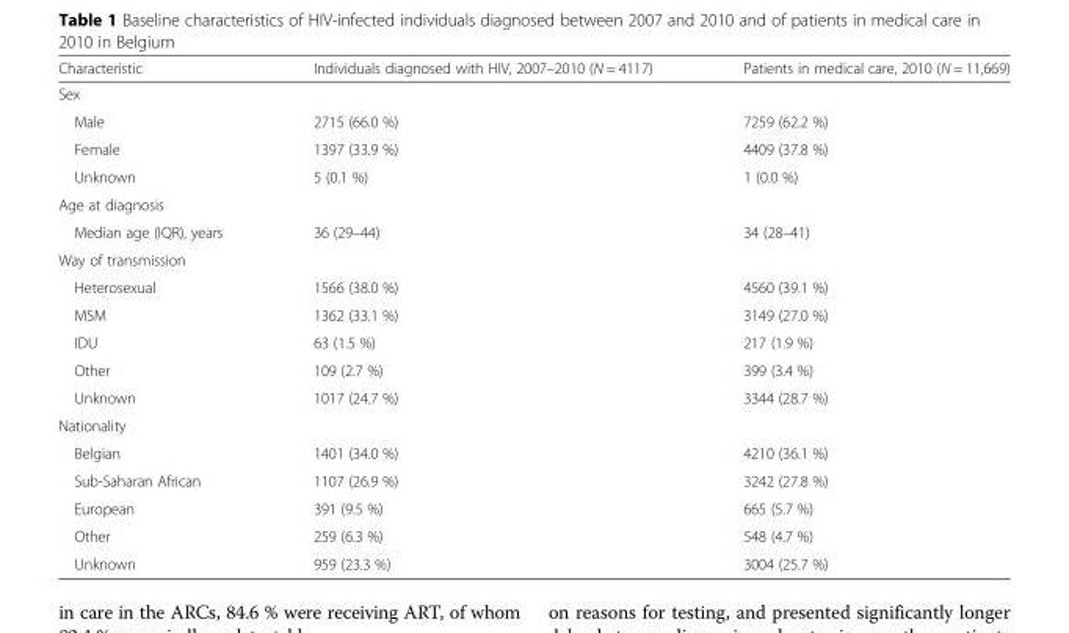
<table><thead><tr><td>Characteristic</td><td>Individuals diagnosed with HIV, 2007–2010 (N = 4117)</td><td>Patients in medical care, 2010 (N = 11,669)</td></tr></thead><tbody><tr><td colspan="3">Sex</td></tr><tr><td>Male</td><td>2715 (66.0 %)</td><td>7259 (62.2 %)</td></tr><tr><td>Female</td><td>1397 (33.9 %)</td><td>4409 (37.8 %)</td></tr><tr><td>Unknown</td><td>5 (0.1 %)</td><td>1 (0.0 %)</td></tr><tr><td colspan="3">Age at diagnosis</td></tr><tr><td>Median age (IQR), years</td><td>36 (29–44)</td><td>34 (28–41)</td></tr><tr><td colspan="3">Way of transmission</td></tr><tr><td>Heterosexual</td><td>1566 (38.0 %)</td><td>4560 (39.1 %)</td></tr><tr><td>MSM</td><td>1362 (33.1 %)</td><td>3149 (27.0 %)</td></tr><tr><td>IDU</td><td>63 (1.5 %)</td><td>217 (1.9 %)</td></tr><tr><td>Other</td><td>109 (2.7 %)</td><td>399 (3.4 %)</td></tr><tr><td>Unknown</td><td>1017 (24.7 %)</td><td>3344 (28.7 %)</td></tr><tr><td colspan="3">Nationality</td></tr><tr><td>Belgian</td><td>1401 (34.0 %)</td><td>4210 (36.1 %)</td></tr><tr><td>Sub-Saharan African</td><td>1107 (26.9 %)</td><td>3242 (27.8 %)</td></tr><tr><td>European</td><td>391 (9.5 %)</td><td>665 (5.7 %)</td></tr><tr><td>Other</td><td>259 (6.3 %)</td><td>548 (4.7 %)</td></tr><tr><td>Unknown</td><td>959 (23.3 %)</td><td>3004 (25.7 %)</td></tr></tbody></table>